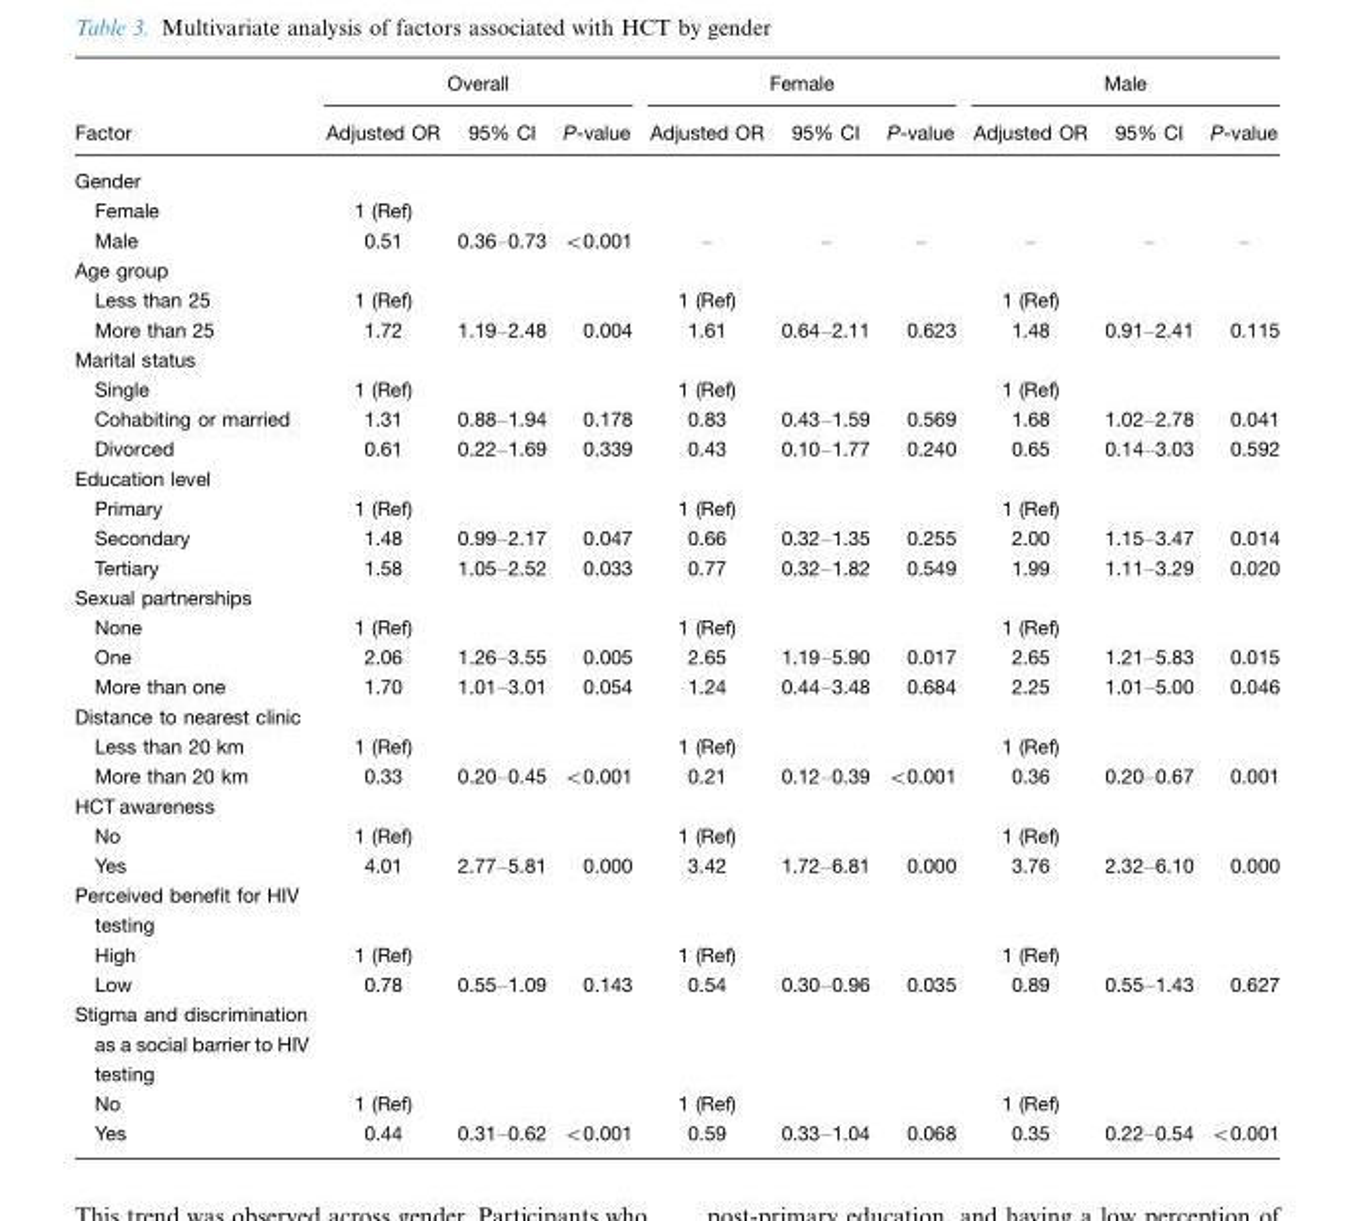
<table><thead><tr><td rowspan="2">Factor</td><td colspan="3">Overall</td><td colspan="3">Female</td><td colspan="3">Male</td></tr><tr><td>Adjusted OR</td><td>95% CI</td><td>P-value</td><td>Adjusted OR</td><td>95% CI</td><td>P-value</td><td>Adjusted OR</td><td>95% CI</td><td>P-value</td></tr></thead><tbody><tr><td colspan="10">Gender</td></tr><tr><td>Female</td><td>1 (Ref)</td><td></td><td></td><td></td><td></td><td></td><td></td><td></td><td></td></tr><tr><td>Male</td><td>0.51</td><td>0.36–0.73</td><td>&lt;0.001</td><td>–</td><td>–</td><td>–</td><td>–</td><td>–</td><td>–</td></tr><tr><td colspan="10">Age group</td></tr><tr><td>Less than 25</td><td>1 (Ref)</td><td></td><td></td><td>1 (Ref)</td><td></td><td></td><td>1 (Ref)</td><td></td><td></td></tr><tr><td>More than 25</td><td>1.72</td><td>1.19–2.48</td><td>0.004</td><td>1.61</td><td>0.64–2.11</td><td>0.623</td><td>1.48</td><td>0.91–2.41</td><td>0.115</td></tr><tr><td colspan="10">Marital status</td></tr><tr><td>Single</td><td>1 (Ref)</td><td></td><td></td><td>1 (Ref)</td><td></td><td></td><td>1 (Ref)</td><td></td><td></td></tr><tr><td>Cohabiting or married</td><td>1.31</td><td>0.88–1.94</td><td>0.178</td><td>0.83</td><td>0.43–1.59</td><td>0.569</td><td>1.68</td><td>1.02–2.78</td><td>0.041</td></tr><tr><td>Divorced</td><td>0.61</td><td>0.22–1.69</td><td>0.339</td><td>0.43</td><td>0.10–1.77</td><td>0.240</td><td>0.65</td><td>0.14–3.03</td><td>0.592</td></tr><tr><td colspan="10">Education level</td></tr><tr><td>Primary</td><td>1 (Ref)</td><td></td><td></td><td>1 (Ref)</td><td></td><td></td><td>1 (Ref)</td><td></td><td></td></tr><tr><td>Secondary</td><td>1.48</td><td>0.99–2.17</td><td>0.047</td><td>0.66</td><td>0.32–1.35</td><td>0.255</td><td>2.00</td><td>1.15–3.47</td><td>0.014</td></tr><tr><td>Tertiary</td><td>1.58</td><td>1.05–2.52</td><td>0.033</td><td>0.77</td><td>0.32–1.82</td><td>0.549</td><td>1.99</td><td>1.11–3.29</td><td>0.020</td></tr><tr><td colspan="10">Sexual partnerships</td></tr><tr><td>None</td><td>1 (Ref)</td><td></td><td></td><td>1 (Ref)</td><td></td><td></td><td>1 (Ref)</td><td></td><td></td></tr><tr><td>One</td><td>2.06</td><td>1.26–3.55</td><td>0.005</td><td>2.65</td><td>1.19–5.90</td><td>0.017</td><td>2.65</td><td>1.21–5.83</td><td>0.015</td></tr><tr><td>More than one</td><td>1.70</td><td>1.01–3.01</td><td>0.054</td><td>1.24</td><td>0.44–3.48</td><td>0.684</td><td>2.25</td><td>1.01–5.00</td><td>0.046</td></tr><tr><td colspan="10">Distance to nearest clinic</td></tr><tr><td>Less than 20 km</td><td>1 (Ref)</td><td></td><td></td><td>1 (Ref)</td><td></td><td></td><td>1 (Ref)</td><td></td><td></td></tr><tr><td>More than 20 km</td><td>0.33</td><td>0.20–0.45</td><td>&lt;0.001</td><td>0.21</td><td>0.12–0.39</td><td>&lt;0.001</td><td>0.36</td><td>0.20–0.67</td><td>0.001</td></tr><tr><td colspan="10">HCT awareness</td></tr><tr><td>No</td><td>1 (Ref)</td><td></td><td></td><td>1 (Ref)</td><td></td><td></td><td>1 (Ref)</td><td></td><td></td></tr><tr><td>Yes</td><td>4.01</td><td>2.77–5.81</td><td>0.000</td><td>3.42</td><td>1.72–6.81</td><td>0.000</td><td>3.76</td><td>2.32–6.10</td><td>0.000</td></tr><tr><td colspan="10">Perceived benefit for HIV testing</td></tr><tr><td>High</td><td>1 (Ref)</td><td></td><td></td><td>1 (Ref)</td><td></td><td></td><td>1 (Ref)</td><td></td><td></td></tr><tr><td>Low</td><td>0.78</td><td>0.55–1.09</td><td>0.143</td><td>0.54</td><td>0.30–0.96</td><td>0.035</td><td>0.89</td><td>0.55–1.43</td><td>0.627</td></tr><tr><td colspan="10">Stigma and discrimination as a social barrier to HIV testing</td></tr><tr><td>No</td><td>1 (Ref)</td><td></td><td></td><td>1 (Ref)</td><td></td><td></td><td>1 (Ref)</td><td></td><td></td></tr><tr><td>Yes</td><td>0.44</td><td>0.31–0.62</td><td>&lt;0.001</td><td>0.59</td><td>0.33–1.04</td><td>0.068</td><td>0.35</td><td>0.22–0.54</td><td>&lt;0.001</td></tr></tbody></table>